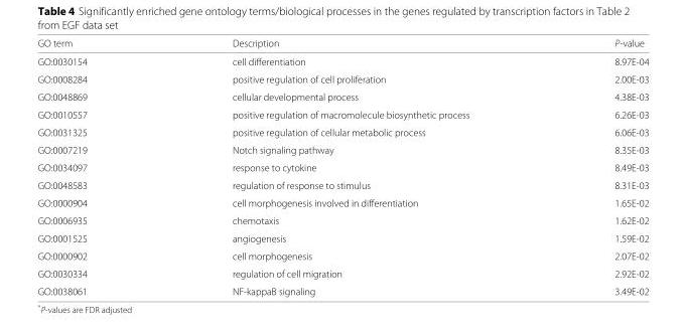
<table><thead><tr><td>GO term</td><td>Description</td><td>P-value</td></tr></thead><tbody><tr><td>GO:0030154</td><td>cell differentiation</td><td>8.97E-04</td></tr><tr><td>GO:0008284</td><td>positive regulation of cell proliferation</td><td>2.00E-03</td></tr><tr><td>GO:0048869</td><td>cellular developmental process</td><td>4.38E-03</td></tr><tr><td>GO:0010557</td><td>positive regulation of macromolecule biosynthetic process</td><td>6.26E-03</td></tr><tr><td>GO:0031325</td><td>positive regulation of cellular metabolic process</td><td>6.06E-03</td></tr><tr><td>GO:0007219</td><td>Notch signaling pathway</td><td>8.35E-03</td></tr><tr><td>GO:0034097</td><td>response to cytokine</td><td>8.49E-03</td></tr><tr><td>GO:0048583</td><td>regulation of response to stimulus</td><td>8.31E-03</td></tr><tr><td>GO:0000904</td><td>cell morphogenesis involved in differentiation</td><td>1.65E-02</td></tr><tr><td>GO:0006935</td><td>chemotaxis</td><td>1.62E-02</td></tr><tr><td>GO:0001525</td><td>angiogenesis</td><td>1.59E-02</td></tr><tr><td>GO:0000902</td><td>cell morphogenesis</td><td>2.07E-02</td></tr><tr><td>GO:0030334</td><td>regulation of cell migration</td><td>2.92E-02</td></tr><tr><td>GO:0038061</td><td>NF-kappaB signaling</td><td>3.49E-02</td></tr></tbody></table>